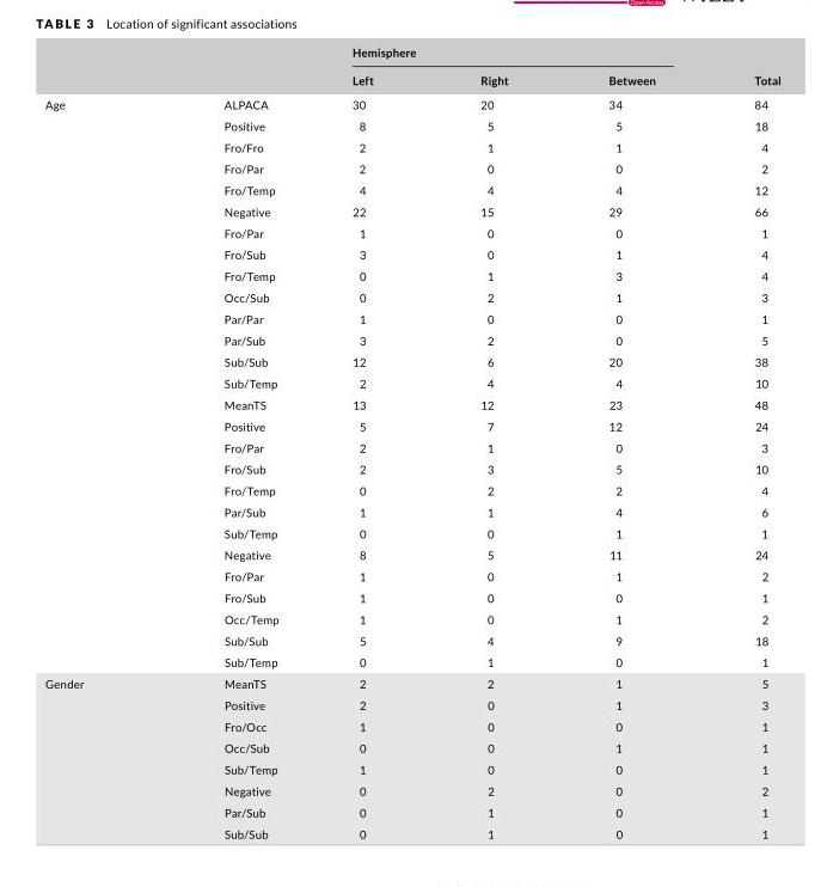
<table><thead><tr><td rowspan="2"></td><td rowspan="2"></td><td colspan="3">Hemisphere</td><td rowspan="2">Total</td></tr><tr><td>Left</td><td>Right</td><td>Between</td></tr></thead><tbody><tr><td rowspan="27">Age</td><td>ALPACA</td><td>30</td><td>20</td><td>34</td><td>84</td></tr><tr><td>Positive</td><td>8</td><td>5</td><td>5</td><td>18</td></tr><tr><td>Fro/Fro</td><td>2</td><td>1</td><td>1</td><td>4</td></tr><tr><td>Fro/Par</td><td>2</td><td>0</td><td>0</td><td>2</td></tr><tr><td>Fro/Temp</td><td>4</td><td>4</td><td>4</td><td>12</td></tr><tr><td>Negative</td><td>22</td><td>15</td><td>29</td><td>66</td></tr><tr><td>Fro/Par</td><td>1</td><td>0</td><td>0</td><td>1</td></tr><tr><td>Fro/Sub</td><td>3</td><td>0</td><td>1</td><td>4</td></tr><tr><td>Fro/Temp</td><td>0</td><td>1</td><td>3</td><td>4</td></tr><tr><td>Occ/Sub</td><td>0</td><td>2</td><td>1</td><td>3</td></tr><tr><td>Par/Par</td><td>1</td><td>0</td><td>0</td><td>1</td></tr><tr><td>Par/Sub</td><td>3</td><td>2</td><td>0</td><td>5</td></tr><tr><td>Sub/Sub</td><td>12</td><td>6</td><td>20</td><td>38</td></tr><tr><td>Sub/Temp</td><td>2</td><td>4</td><td>4</td><td>10</td></tr><tr><td>MeanTS</td><td>13</td><td>12</td><td>23</td><td>48</td></tr><tr><td>Positive</td><td>5</td><td>7</td><td>12</td><td>24</td></tr><tr><td>Fro/Par</td><td>2</td><td>1</td><td>0</td><td>3</td></tr><tr><td>Fro/Sub</td><td>2</td><td>3</td><td>5</td><td>10</td></tr><tr><td>Fro/Temp</td><td>0</td><td>2</td><td>2</td><td>4</td></tr><tr><td>Par/Sub</td><td>1</td><td>1</td><td>4</td><td>6</td></tr><tr><td>Sub/Temp</td><td>0</td><td>0</td><td>1</td><td>1</td></tr><tr><td>Negative</td><td>8</td><td>5</td><td>11</td><td>24</td></tr><tr><td>Fro/Par</td><td>1</td><td>0</td><td>1</td><td>2</td></tr><tr><td>Fro/Sub</td><td>1</td><td>0</td><td>0</td><td>1</td></tr><tr><td>Occ/Temp</td><td>1</td><td>0</td><td>1</td><td>2</td></tr><tr><td>Sub/Sub</td><td>5</td><td>4</td><td>9</td><td>18</td></tr><tr><td>Sub/Temp</td><td>0</td><td>1</td><td>0</td><td>1</td></tr><tr><td rowspan="8">Gender</td><td>MeanTS</td><td>2</td><td>2</td><td>1</td><td>5</td></tr><tr><td>Positive</td><td>2</td><td>0</td><td>1</td><td>3</td></tr><tr><td>Fro/Occ</td><td>1</td><td>0</td><td>0</td><td>1</td></tr><tr><td>Occ/Sub</td><td>0</td><td>0</td><td>1</td><td>1</td></tr><tr><td>Sub/Temp</td><td>1</td><td>0</td><td>0</td><td>1</td></tr><tr><td>Negative</td><td>0</td><td>2</td><td>0</td><td>2</td></tr><tr><td>Par/Sub</td><td>0</td><td>1</td><td>0</td><td>1</td></tr><tr><td>Sub/Sub</td><td>0</td><td>1</td><td>0</td><td>1</td></tr></tbody></table>